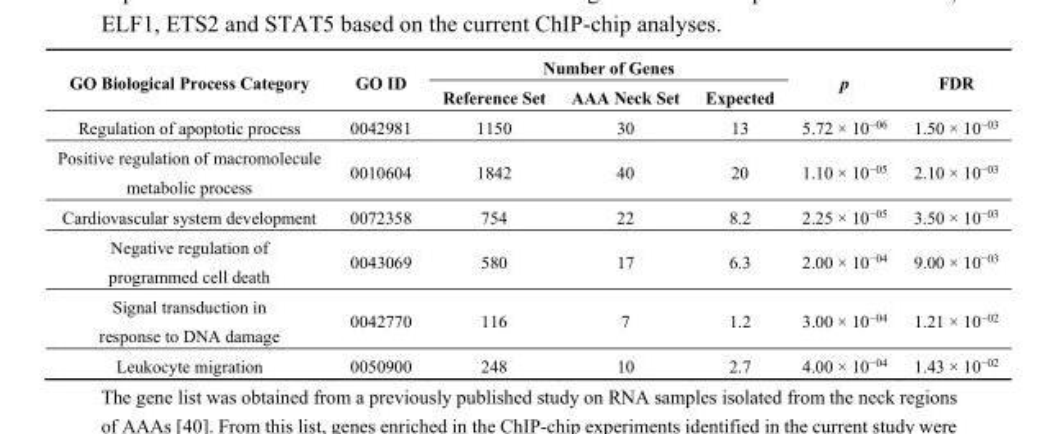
<table><thead><tr><td rowspan="2">GO Biological Process Category</td><td rowspan="2">GO ID</td><td colspan="3">Number of Genes</td><td rowspan="2">p</td><td rowspan="2">FDR</td></tr><tr><td>Reference Set</td><td>AAA Neck Set</td><td>Expected</td></tr></thead><tbody><tr><td>Regulation of apoptotic process</td><td>0042981</td><td>1150</td><td>30</td><td>13</td><td>5.72 × 10<sup>−06</sup></td><td>1.50 × 10<sup>−03</sup></td></tr><tr><td>Positive regulation of macromolecule metabolic process</td><td>0010604</td><td>1842</td><td>40</td><td>20</td><td>1.10 × 10<sup>−05</sup></td><td>2.10 × 10<sup>−03</sup></td></tr><tr><td>Cardiovascular system development</td><td>0072358</td><td>754</td><td>22</td><td>8.2</td><td>2.25 × 10<sup>−05</sup></td><td>3.50 × 10<sup>−03</sup></td></tr><tr><td>Negative regulation of programmed cell death</td><td>0043069</td><td>580</td><td>17</td><td>6.3</td><td>2.00 × 10<sup>−04</sup></td><td>9.00 × 10<sup>−03</sup></td></tr><tr><td>Signal transduction in response to DNA damage</td><td>0042770</td><td>116</td><td>7</td><td>1.2</td><td>3.00 × 10<sup>−04</sup></td><td>1.21 × 10<sup>−02</sup></td></tr><tr><td>Leukocyte migration</td><td>0050900</td><td>248</td><td>10</td><td>2.7</td><td>4.00 × 10<sup>−04</sup></td><td>1.43 × 10<sup>−02</sup></td></tr></tbody></table>